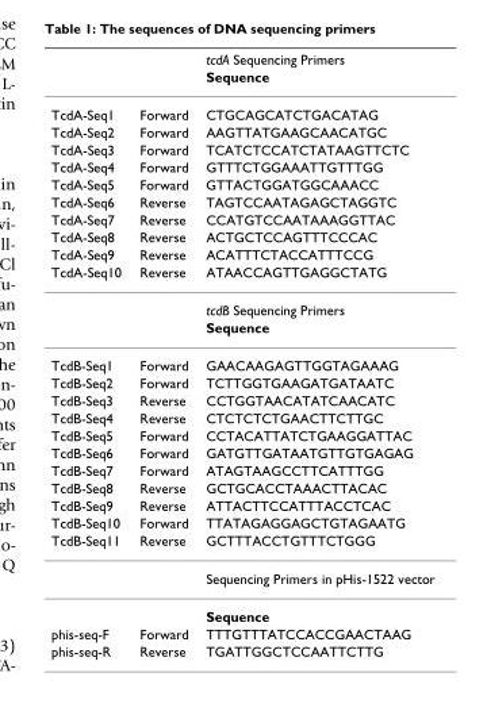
<table><thead><tr><td rowspan="2"></td><td rowspan="2"></td><td rowspan="2">tcdA Sequencing Primers Sequence</td></tr><tr></tr></thead><tbody><tr><td>TcdA-Seq1</td><td>Forward</td><td>CTGCAGCATCTGACATAG</td></tr><tr><td>TcdA-Seq2</td><td>Forward</td><td>AAGTTATGAAGCAACATGC</td></tr><tr><td>TcdA-Seq3</td><td>Forward</td><td>TCATCTCCATCTATAAGTTCTC</td></tr><tr><td>TcdA-Seq4</td><td>Forward</td><td>GTTTCTGGAAATTGTTTGG</td></tr><tr><td>TcdA-Seq5</td><td>Forward</td><td>GTTACTGGATGGCAAACC</td></tr><tr><td>TcdA-Seq6</td><td>Reverse</td><td>TAGTCCAATAGAGCTAGGTC</td></tr><tr><td>TcdA-Seq7</td><td>Reverse</td><td>CCATGTCCAATAAAGGTTAC</td></tr><tr><td>TcdA-Seq8</td><td>Reverse</td><td>ACTGCTCCAGTTTCCCAC</td></tr><tr><td>TcdA-Seq9</td><td>Reverse</td><td>ACATTTCTACCATTTCCG</td></tr><tr><td rowspan="3">TcdA-Seq10</td><td>Reverse</td><td>ATAACCAGTTGAGGCTATG</td></tr><tr><td></td><td>tcdB Sequencing Primers</td></tr><tr><td></td><td>Sequence</td></tr><tr><td>TcdB-Seq1</td><td>Forward</td><td>GAACAAGAGTTGGTAGAAAG</td></tr><tr><td>TcdB-Seq2</td><td>Forward</td><td>TCTTGGTGAAGATGATAATC</td></tr><tr><td>TcdB-Seq3</td><td>Reverse</td><td>CCTGGTAACATATCAACATC</td></tr><tr><td>TcdB-Seq4</td><td>Reverse</td><td>CTCTCTCTGAACTTCTTGC</td></tr><tr><td>TcdB-Seq5</td><td>Forward</td><td>CCTACATTATCTGAAGGATTAC</td></tr><tr><td>TcdB-Seq6</td><td>Forward</td><td>GATGTTGATAATGTTGTGAGAG</td></tr><tr><td>TcdB-Seq7</td><td>Forward</td><td>ATAGTAAGCCTTCATTTGG</td></tr><tr><td>TcdB-Seq8</td><td>Reverse</td><td>GCTGCACCTAAACTTACAC</td></tr><tr><td>TcdB-Seq9</td><td>Reverse</td><td>ATTACTTCCATTTACCTCAC</td></tr><tr><td>TcdB-Seq10</td><td>Forward</td><td>TTATAGAGGAGCTGTAGAATG</td></tr><tr><td rowspan="3">TcdB-Seq11</td><td>Reverse</td><td>GCTTTACCTGTTTCTGGG</td></tr><tr><td></td><td>Sequencing Primers in pHis-1522 vector</td></tr><tr><td></td><td>Sequence</td></tr><tr><td>phis-seq-F</td><td>Forward</td><td>TTTGTTTATCCACCGAACTAAG</td></tr><tr><td>phis-seq-R</td><td>Reverse</td><td>TGATTGGCTCCAATTCTTG</td></tr></tbody></table>